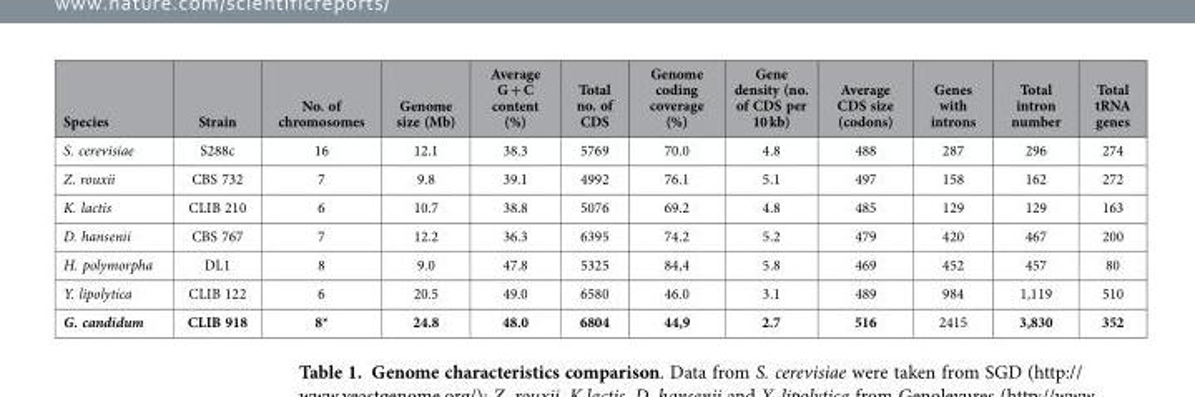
<table><thead><tr><td>Species</td><td>Strain</td><td>No. of chromosomes</td><td>Genome size (Mb)</td><td>Average G + C content (%)</td><td>Total no. of CDS</td><td>Genome coding coverage (%)</td><td>Gene density (no. of CDS per 10 kb)</td><td>Average CDS size (codons)</td><td>Genes with introns</td><td>Total intron number</td><td>Total tRNA genes</td></tr></thead><tbody><tr><td>S. cerevisiae</td><td>S288c</td><td>16</td><td>12.1</td><td>38.3</td><td>5769</td><td>70.0</td><td>4.8</td><td>488</td><td>287</td><td>296</td><td>274</td></tr><tr><td>Z. rouxii</td><td>CBS 732</td><td>7</td><td>9.8</td><td>39.1</td><td>4992</td><td>76.1</td><td>5.1</td><td>497</td><td>158</td><td>162</td><td>272</td></tr><tr><td>K. lactis</td><td>CLIB 210</td><td>6</td><td>10.7</td><td>38.8</td><td>5076</td><td>69.2</td><td>4.8</td><td>485</td><td>129</td><td>129</td><td>163</td></tr><tr><td>D. hansenii</td><td>CBS 767</td><td>7</td><td>12.2</td><td>36.3</td><td>6395</td><td>74.2</td><td>5.2</td><td>479</td><td>420</td><td>467</td><td>200</td></tr><tr><td>H. polymorpha</td><td>DL1</td><td>8</td><td>9.0</td><td>47.8</td><td>5325</td><td>84,4</td><td>5.8</td><td>469</td><td>452</td><td>457</td><td>80</td></tr><tr><td>Y. lipolytica</td><td>CLIB 122</td><td>6</td><td>20.5</td><td>49.0</td><td>6580</td><td>46.0</td><td>3.1</td><td>489</td><td>984</td><td>1,119</td><td>510</td></tr><tr><td>G. candidum</td><td>CLIB 918</td><td>8*</td><td>24.8</td><td>48.0</td><td>6804</td><td>44,9</td><td>2.7</td><td>516</td><td>2415</td><td>3,830</td><td>352</td></tr></tbody></table>